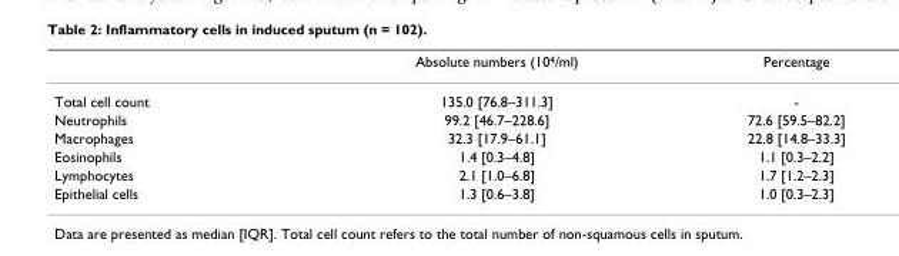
<table><thead><tr><td></td><td>Absolute numbers (10<sup>4</sup>/ml)</td><td>Percentage</td></tr></thead><tbody><tr><td>Total cell count</td><td>135.0 [76.8–311.3]</td><td>-</td></tr><tr><td>Neutrophils</td><td>99.2 [46.7–228.6]</td><td>72.6 [59.5–82.2]</td></tr><tr><td>Macrophages</td><td>32.3 [17.9–61.1]</td><td>22.8 [14.8–33.3]</td></tr><tr><td>Eosinophils</td><td>1.4 [0.3–4.8]</td><td>1.1 [0.3–2.2]</td></tr><tr><td>Lymphocytes</td><td>2.1 [1.0–6.8]</td><td>1.7 [1.2–2.3]</td></tr><tr><td>Epithelial cells</td><td>1.3 [0.6–3.8]</td><td>1.0 [0.3–2.3]</td></tr></tbody></table>